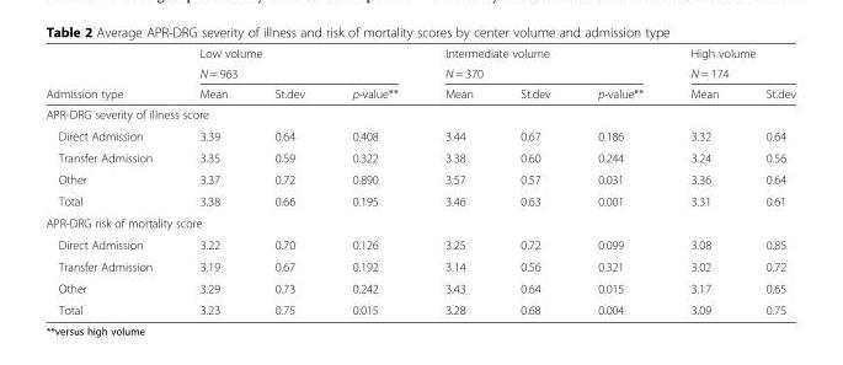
<table><thead><tr><td rowspan="3">Admission type</td><td rowspan="2" colspan="3">Low volume N = 963</td><td rowspan="2" colspan="3">Intermediate volume N = 370</td><td rowspan="2" colspan="2">High volume N = 174</td></tr><tr></tr><tr><td>Mean</td><td>St.dev</td><td>p-value**</td><td>Mean</td><td>St.dev</td><td>p-value**</td><td>Mean</td><td>St.dev</td></tr></thead><tbody><tr><td colspan="9">APR-DRG severity of illness score</td></tr><tr><td>Direct Admission</td><td>3.39</td><td>0.64</td><td>0.408</td><td>3.44</td><td>0.67</td><td>0.186</td><td>3.32</td><td>0.64</td></tr><tr><td>Transfer Admission</td><td>3.35</td><td>0.59</td><td>0.322</td><td>3.38</td><td>0.60</td><td>0.244</td><td>3.24</td><td>0.56</td></tr><tr><td>Other</td><td>3.37</td><td>0.72</td><td>0.890</td><td>3.57</td><td>0.57</td><td>0.031</td><td>3.36</td><td>0.64</td></tr><tr><td>Total</td><td>3.38</td><td>0.66</td><td>0.195</td><td>3.46</td><td>0.63</td><td>0.001</td><td>3.31</td><td>0.61</td></tr><tr><td colspan="9">APR-DRG risk of mortality score</td></tr><tr><td>Direct Admission</td><td>3.22</td><td>0.70</td><td>0.126</td><td>3.25</td><td>0.72</td><td>0.099</td><td>3.08</td><td>0.85</td></tr><tr><td>Transfer Admission</td><td>3.19</td><td>0.67</td><td>0.192</td><td>3.14</td><td>0.56</td><td>0.321</td><td>3.02</td><td>0.72</td></tr><tr><td>Other</td><td>3.29</td><td>0.73</td><td>0.242</td><td>3.43</td><td>0.64</td><td>0.015</td><td>3.17</td><td>0.65</td></tr><tr><td>Total</td><td>3.23</td><td>0.75</td><td>0.015</td><td>3.28</td><td>0.68</td><td>0.004</td><td>3.09</td><td>0.75</td></tr></tbody></table>